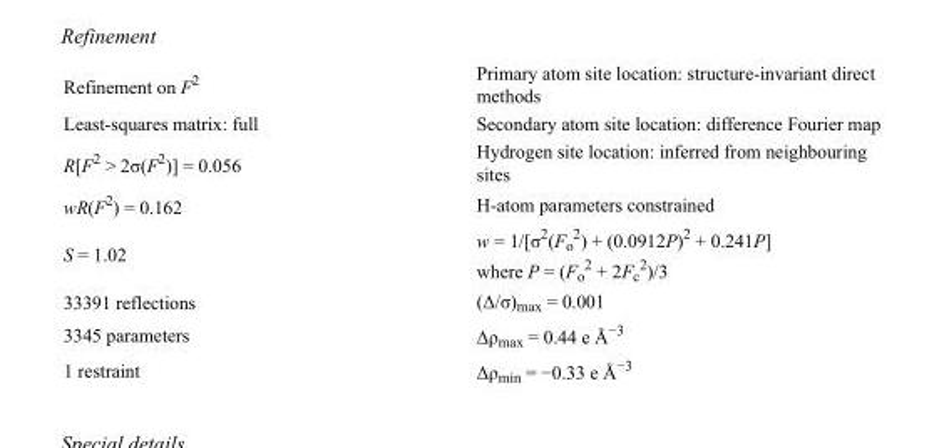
<table><tbody><tr><td>Refinement on F<sup>2</sup></td><td>Primary atom site location: structure-invariant direct methods</td></tr><tr><td>Least-squares matrix: full</td><td>Secondary atom site location: difference Fourier map</td></tr><tr><td>R[F<sup>2</sup> &gt; 2σ(F<sup>2</sup>)] = 0.056</td><td>Hydrogen site location: inferred from neighbouring sites</td></tr><tr><td>wR(F<sup>2</sup>) = 0.162</td><td>H-atom parameters constrained</td></tr><tr><td>S = 1.02</td><td>w = 1/[σ<sup>2</sup>(F<sub>o</sub> <sup>2</sup>) + (0.0912P)<sup>2</sup> + 0.241P] where P = (F<sub>o</sub> <sup>2</sup> + 2F<sub>c</sub> <sup>2</sup>)/3</td></tr><tr><td>33391 reflections</td><td>(Δ/σ)<sub>max</sub> = 0.001</td></tr><tr><td>3345 parameters</td><td>Δρ<sub>max</sub> = 0.44 e Å<sup>−3</sup></td></tr><tr><td>1 restraint</td><td>Δρ<sub>min</sub> = −0.33 e Å<sup>−3</sup></td></tr></tbody></table>